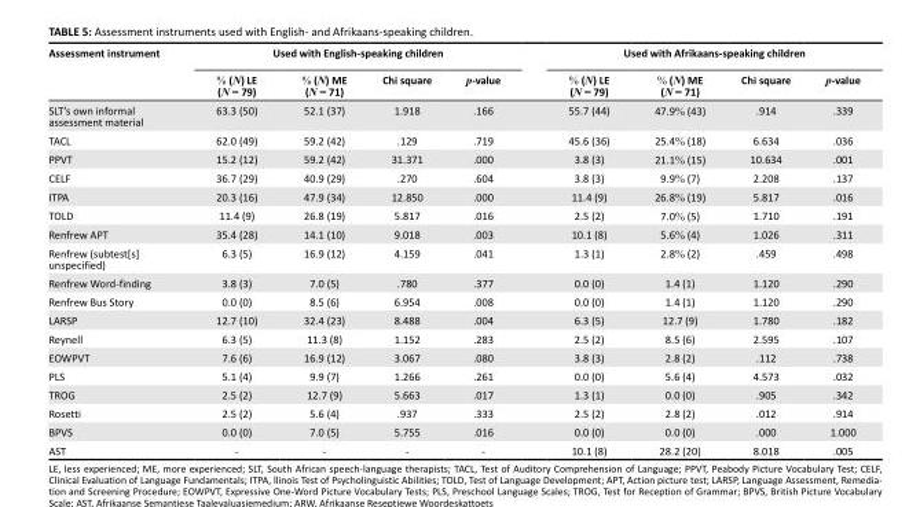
<table><thead><tr><td rowspan="2">Assessment instrument</td><td colspan="4">Used with English-speaking children</td><td colspan="4">Used with Afrikaans-speaking children</td></tr><tr><td>% (N) LE (N = 79)</td><td>% (N) ME (N = 71)</td><td>Chi square</td><td>p-value</td><td>% (N) LE (N = 79)</td><td>% (N) ME (N = 71)</td><td>Chi square</td><td>p-value</td></tr></thead><tbody><tr><td>SLT’s own informal assessment material</td><td>63.3 (50)</td><td>52.1 (37)</td><td>1.918</td><td>.166</td><td>55.7 (44)</td><td>47.9% (43)</td><td>.914</td><td>.339</td></tr><tr><td>TACL</td><td>62.0 (49)</td><td>59.2 (42)</td><td>.129</td><td>.719</td><td>45.6 (36)</td><td>25.4% (18)</td><td>6.634</td><td>.036</td></tr><tr><td>PPVT</td><td>15.2 (12)</td><td>59.2 (42)</td><td>31.371</td><td>.000</td><td>3.8 (3)</td><td>21.1% (15)</td><td>10.634</td><td>.001</td></tr><tr><td>CELF</td><td>36.7 (29)</td><td>40.9 (29)</td><td>.270</td><td>.604</td><td>3.8 (3)</td><td>9.9% (7)</td><td>2.208</td><td>.137</td></tr><tr><td>ITPA</td><td>20.3 (16)</td><td>47.9 (34)</td><td>12.850</td><td>.000</td><td>11.4 (9)</td><td>26.8% (19)</td><td>5.817</td><td>.016</td></tr><tr><td>TOLD</td><td>11.4 (9)</td><td>26.8 (19)</td><td>5.817</td><td>.016</td><td>2.5 (2)</td><td>7.0% (5)</td><td>1.710</td><td>.191</td></tr><tr><td>Renfrew APT</td><td>35.4 (28)</td><td>14.1 (10)</td><td>9.018</td><td>.003</td><td>10.1 (8)</td><td>5.6% (4)</td><td>1.026</td><td>.311</td></tr><tr><td>Renfrew (subtest[s] unspecified)</td><td>6.3 (5)</td><td>16.9 (12)</td><td>4.159</td><td>.041</td><td>1.3 (1)</td><td>2.8% (2)</td><td>.459</td><td>.498</td></tr><tr><td>Renfrew Word-finding</td><td>3.8 (3)</td><td>7.0 (5)</td><td>.780</td><td>.377</td><td>0.0 (0)</td><td>1.4 (1)</td><td>1.120</td><td>.290</td></tr><tr><td>Renfrew Bus Story</td><td>0.0 (0)</td><td>8.5 (6)</td><td>6.954</td><td>.008</td><td>0.0 (0)</td><td>1.4 (1)</td><td>1.120</td><td>.290</td></tr><tr><td>LARSP</td><td>12.7 (10)</td><td>32.4 (23)</td><td>8.488</td><td>.004</td><td>6.3 (5)</td><td>12.7 (9)</td><td>1.780</td><td>.182</td></tr><tr><td>Reynell</td><td>6.3 (5)</td><td>11.3 (8)</td><td>1.152</td><td>.283</td><td>2.5 (2)</td><td>8.5 (6)</td><td>2.595</td><td>.107</td></tr><tr><td>EOWPVT</td><td>7.6 (6)</td><td>16.9 (12)</td><td>3.067</td><td>.080</td><td>3.8 (3)</td><td>2.8 (2)</td><td>.112</td><td>.738</td></tr><tr><td>PLS</td><td>5.1 (4)</td><td>9.9 (7)</td><td>1.266</td><td>.261</td><td>0.0 (0)</td><td>5.6 (4)</td><td>4.573</td><td>.032</td></tr><tr><td>TROG</td><td>2.5 (2)</td><td>12.7 (9)</td><td>5.663</td><td>.017</td><td>1.3 (1)</td><td>0.0 (0)</td><td>.905</td><td>.342</td></tr><tr><td>Rosetti</td><td>2.5 (2)</td><td>5.6 (4)</td><td>.937</td><td>.333</td><td>2.5 (2)</td><td>2.8 (2)</td><td>.012</td><td>.914</td></tr><tr><td>BPVS</td><td>0.0 (0)</td><td>7.0 (5)</td><td>5.755</td><td>.016</td><td>0.0 (0)</td><td>0.0 (0)</td><td>.000</td><td>1.000</td></tr><tr><td>AST</td><td>-</td><td>-</td><td>-</td><td>-</td><td>10.1 (8)</td><td>28.2 (20)</td><td>8.018</td><td>.005</td></tr></tbody></table>